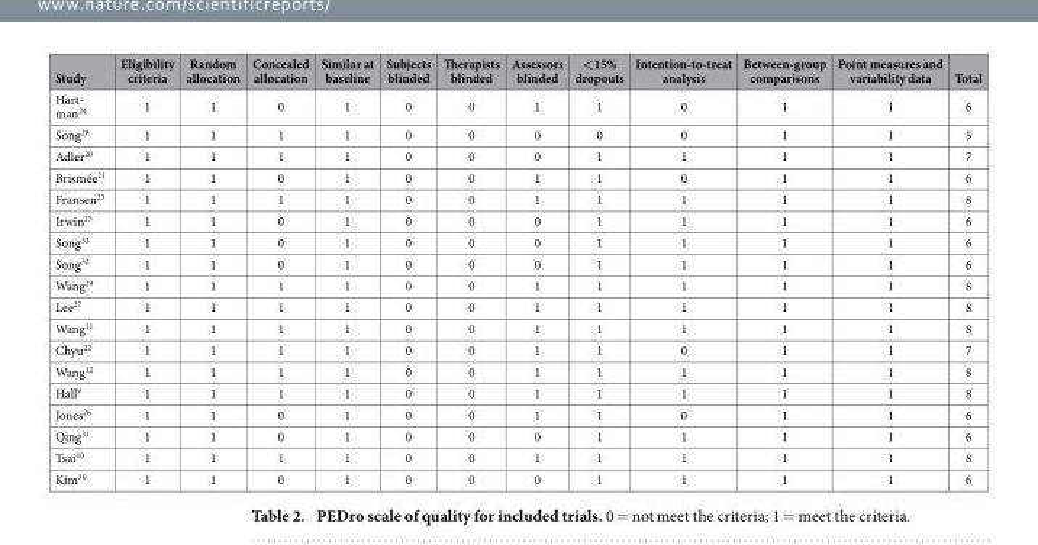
<table><thead><tr><td>Study</td><td>Eligibility criteria</td><td>Random allocation</td><td>Concealed allocation</td><td>Similar at baseline</td><td>Subjects blinded</td><td>Therapists blinded</td><td>Assessors blinded</td><td>&lt;15% dropouts</td><td>Intention-to-treat analysis</td><td>Between-group comparisons</td><td>Point measures and variability data</td><td>Total</td></tr></thead><tbody><tr><td>Hart- man24</td><td>1</td><td>1</td><td>0</td><td>1</td><td>0</td><td>0</td><td>1</td><td>1</td><td>0</td><td>1</td><td>1</td><td>6</td></tr><tr><td>Song<sup>28</sup></td><td>1</td><td>1</td><td>1</td><td>1</td><td>0</td><td>0</td><td>0</td><td>0</td><td>0</td><td>1</td><td>1</td><td>5</td></tr><tr><td>Adler<sup>20</sup></td><td>1</td><td>1</td><td>1</td><td>1</td><td>0</td><td>0</td><td>0</td><td>1</td><td>1</td><td>1</td><td>1</td><td>7</td></tr><tr><td>Brismée<sup>21</sup></td><td>1</td><td>1</td><td>0</td><td>1</td><td>0</td><td>0</td><td>1</td><td>1</td><td>0</td><td>1</td><td>1</td><td>6</td></tr><tr><td>Fransen<sup>23</sup></td><td>1</td><td>1</td><td>1</td><td>1</td><td>0</td><td>0</td><td>1</td><td>1</td><td>1</td><td>1</td><td>1</td><td>8</td></tr><tr><td>Irwin<sup>25</sup></td><td>1</td><td>1</td><td>0</td><td>1</td><td>0</td><td>0</td><td>0</td><td>1</td><td>1</td><td>1</td><td>1</td><td>6</td></tr><tr><td>Song<sup>33</sup></td><td>1</td><td>1</td><td>0</td><td>1</td><td>0</td><td>0</td><td>0</td><td>1</td><td>1</td><td>1</td><td>1</td><td>6</td></tr><tr><td>Song<sup>32</sup></td><td>1</td><td>1</td><td>0</td><td>1</td><td>0</td><td>0</td><td>0</td><td>1</td><td>1</td><td>1</td><td>1</td><td>6</td></tr><tr><td>Wang<sup>29</sup></td><td>1</td><td>1</td><td>1</td><td>1</td><td>0</td><td>0</td><td>1</td><td>1</td><td>1</td><td>1</td><td>1</td><td>8</td></tr><tr><td>Lee<sup>27</sup></td><td>1</td><td>1</td><td>1</td><td>1</td><td>0</td><td>0</td><td>1</td><td>1</td><td>1</td><td>1</td><td>1</td><td>8</td></tr><tr><td>Wang<sup>11</sup></td><td>1</td><td>1</td><td>1</td><td>1</td><td>0</td><td>0</td><td>1</td><td>1</td><td>1</td><td>1</td><td>1</td><td>8</td></tr><tr><td>Chyu<sup>22</sup></td><td>1</td><td>1</td><td>1</td><td>1</td><td>0</td><td>0</td><td>1</td><td>1</td><td>0</td><td>1</td><td>1</td><td>7</td></tr><tr><td>Wang<sup>12</sup></td><td>1</td><td>1</td><td>1</td><td>1</td><td>0</td><td>0</td><td>1</td><td>1</td><td>1</td><td>1</td><td>1</td><td>8</td></tr><tr><td>Hall<sup>9</sup></td><td>1</td><td>1</td><td>1</td><td>1</td><td>0</td><td>0</td><td>1</td><td>1</td><td>1</td><td>1</td><td>1</td><td>8</td></tr><tr><td>Jones<sup>26</sup></td><td>1</td><td>1</td><td>0</td><td>1</td><td>0</td><td>0</td><td>1</td><td>1</td><td>0</td><td>1</td><td>1</td><td>6</td></tr><tr><td>Qing<sup>31</sup></td><td>1</td><td>1</td><td>0</td><td>1</td><td>0</td><td>0</td><td>0</td><td>1</td><td>1</td><td>1</td><td>1</td><td>6</td></tr><tr><td>Tsai<sup>10</sup></td><td>1</td><td>1</td><td>1</td><td>1</td><td>0</td><td>0</td><td>1</td><td>1</td><td>1</td><td>1</td><td>1</td><td>8</td></tr><tr><td>Kim<sup>30</sup></td><td>1</td><td>1</td><td>0</td><td>1</td><td>0</td><td>0</td><td>0</td><td>1</td><td>1</td><td>1</td><td>1</td><td>6</td></tr></tbody></table>